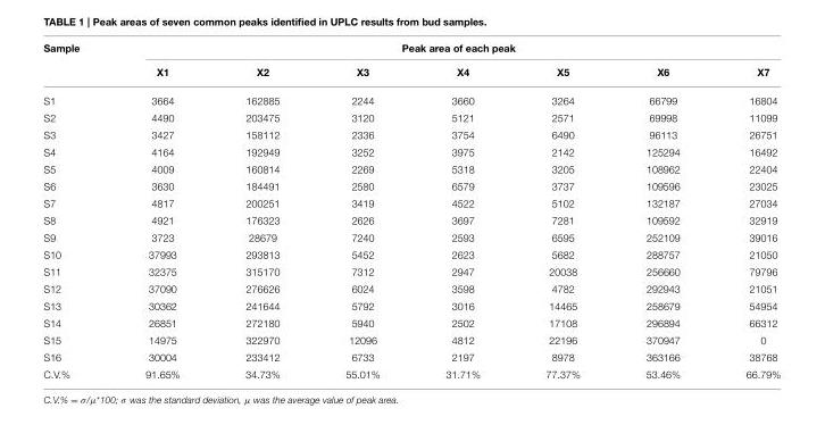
<table><thead><tr><td rowspan="2">Sample</td><td colspan="7">Peak area of each peak</td></tr><tr><td>X1</td><td>X2</td><td>X3</td><td>X4</td><td>X5</td><td>X6</td><td>X7</td></tr></thead><tbody><tr><td>S1</td><td>3664</td><td>162885</td><td>2244</td><td>3660</td><td>3264</td><td>66799</td><td>16804</td></tr><tr><td>S2</td><td>4490</td><td>203475</td><td>3120</td><td>5121</td><td>2571</td><td>69998</td><td>11099</td></tr><tr><td>S3</td><td>3427</td><td>158112</td><td>2336</td><td>3754</td><td>6490</td><td>96113</td><td>26751</td></tr><tr><td>S4</td><td>4164</td><td>192949</td><td>3252</td><td>3975</td><td>2142</td><td>125294</td><td>16492</td></tr><tr><td>S5</td><td>4009</td><td>160814</td><td>2269</td><td>5318</td><td>3205</td><td>108962</td><td>22404</td></tr><tr><td>S6</td><td>3630</td><td>184491</td><td>2580</td><td>6579</td><td>3737</td><td>109596</td><td>23025</td></tr><tr><td>S7</td><td>4817</td><td>200251</td><td>3419</td><td>4522</td><td>5102</td><td>132187</td><td>27034</td></tr><tr><td>S8</td><td>4921</td><td>176323</td><td>2626</td><td>3697</td><td>7281</td><td>109592</td><td>32919</td></tr><tr><td>S9</td><td>3723</td><td>28679</td><td>7240</td><td>2593</td><td>6595</td><td>252109</td><td>39016</td></tr><tr><td>S10</td><td>37993</td><td>293813</td><td>5452</td><td>2623</td><td>5682</td><td>288757</td><td>21050</td></tr><tr><td>S11</td><td>32375</td><td>315170</td><td>7312</td><td>2947</td><td>20038</td><td>256660</td><td>79796</td></tr><tr><td>S12</td><td>37090</td><td>276626</td><td>6024</td><td>3598</td><td>4782</td><td>292943</td><td>21051</td></tr><tr><td>S13</td><td>30362</td><td>241644</td><td>5792</td><td>3016</td><td>14465</td><td>258679</td><td>54954</td></tr><tr><td>S14</td><td>26851</td><td>272180</td><td>5940</td><td>2502</td><td>17108</td><td>296894</td><td>66312</td></tr><tr><td>S15</td><td>14975</td><td>322970</td><td>12096</td><td>4812</td><td>22196</td><td>370947</td><td>0</td></tr><tr><td>S16</td><td>30004</td><td>233412</td><td>6733</td><td>2197</td><td>8978</td><td>363166</td><td>38768</td></tr><tr><td>C.V.%</td><td>91.65%</td><td>34.73%</td><td>55.01%</td><td>31.71%</td><td>77.37%</td><td>53.46%</td><td>66.79%</td></tr></tbody></table>